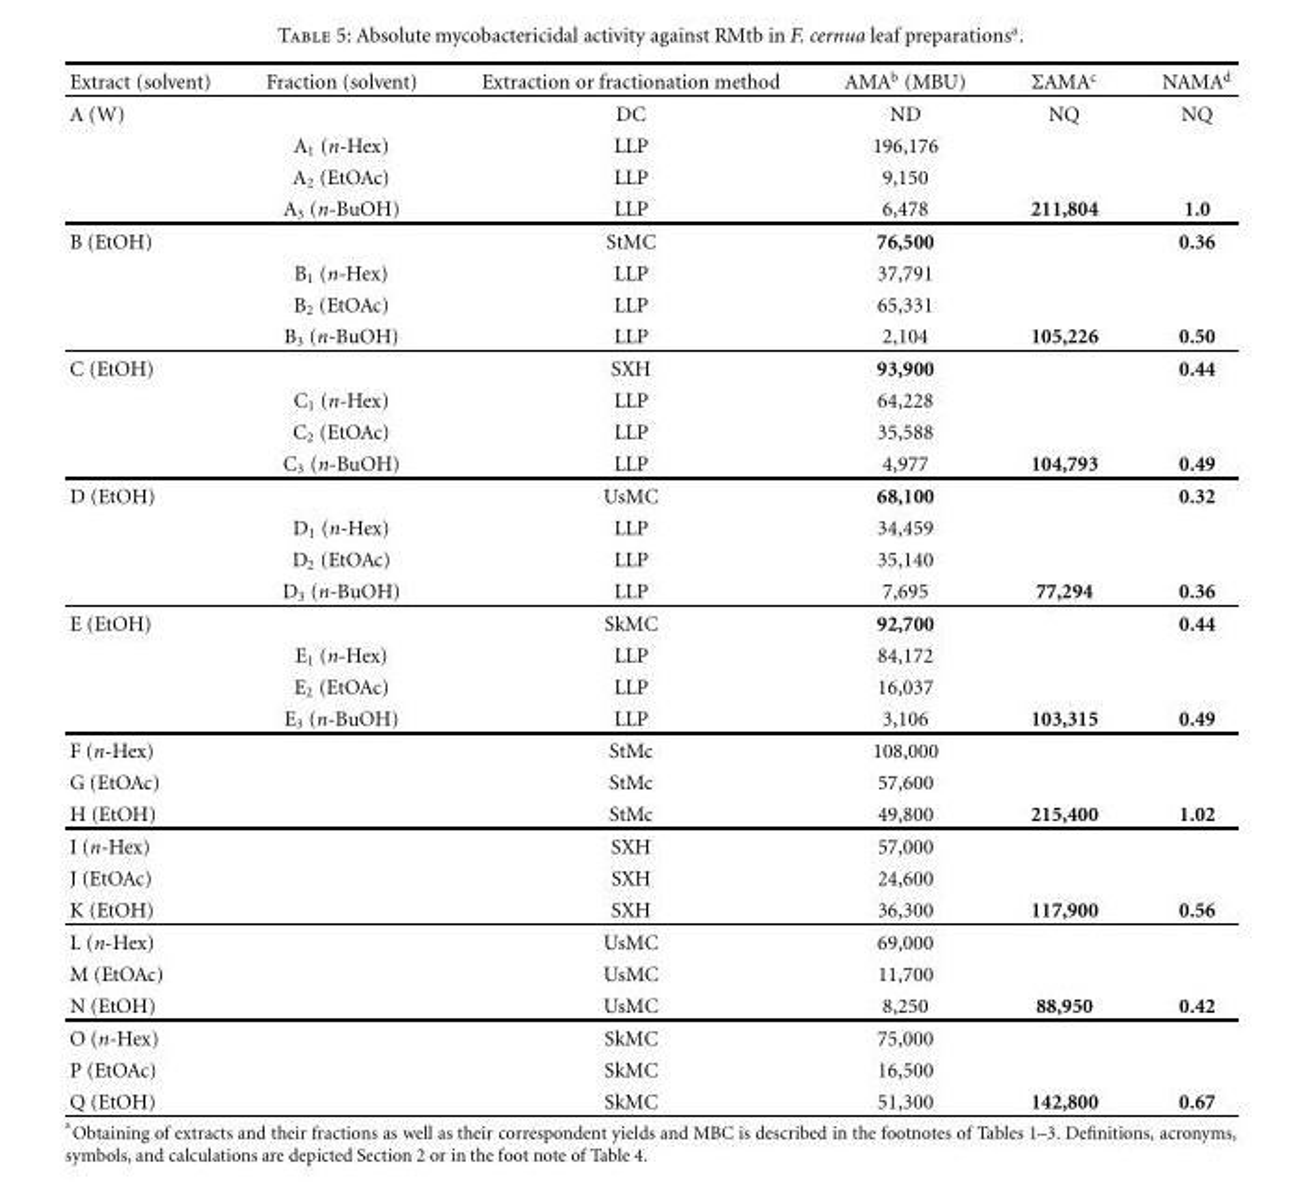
<table><thead><tr><td>Extract (solvent)</td><td>Fraction (solvent)</td><td>Extraction or fractionation method</td><td>AMA<sup>b</sup> (MBU)</td><td>ΣAMA<sup>c</sup></td><td>NAMA<sup>d</sup></td></tr></thead><tbody><tr><td rowspan="4">A (W)</td><td></td><td>DC</td><td>ND</td><td>NQ</td><td>NQ</td></tr><tr><td>A<sub>1</sub> (n-Hex)</td><td>LLP</td><td>196,176</td><td></td><td></td></tr><tr><td>A<sub>2</sub> (EtOAc)</td><td>LLP</td><td>9,150</td><td></td><td></td></tr><tr><td>A<sub>3</sub> (n-BuOH)</td><td>LLP</td><td>6,478</td><td>211,804</td><td>1.0</td></tr><tr><td rowspan="4">B (EtOH)</td><td></td><td>StMC</td><td>76,500</td><td></td><td>0.36</td></tr><tr><td>B<sub>1</sub> (n-Hex)</td><td>LLP</td><td>37,791</td><td></td><td></td></tr><tr><td>B<sub>2</sub> (EtOAc)</td><td>LLP</td><td>65,331</td><td></td><td></td></tr><tr><td>B<sub>3</sub> (n-BuOH)</td><td>LLP</td><td>2,104</td><td>105,226</td><td>0.50</td></tr><tr><td rowspan="4">C (EtOH)</td><td></td><td>SXH</td><td>93,900</td><td></td><td>0.44</td></tr><tr><td>C<sub>1</sub> (n-Hex)</td><td>LLP</td><td>64,228</td><td></td><td></td></tr><tr><td>C<sub>2</sub> (EtOAc)</td><td>LLP</td><td>35,588</td><td></td><td></td></tr><tr><td>C<sub>3</sub> (n-BuOH)</td><td>LLP</td><td>4,977</td><td>104,793</td><td>0.49</td></tr><tr><td rowspan="4">D (EtOH)</td><td></td><td>UsMC</td><td>68,100</td><td></td><td>0.32</td></tr><tr><td>D<sub>1</sub> (n-Hex)</td><td>LLP</td><td>34,459</td><td></td><td></td></tr><tr><td>D<sub>2</sub> (EtOAc)</td><td>LLP</td><td>35,140</td><td></td><td></td></tr><tr><td>D<sub>3</sub> (n-BuOH)</td><td>LLP</td><td>7,695</td><td>77,294</td><td>0.36</td></tr><tr><td rowspan="4">E (EtOH)</td><td></td><td>SkMC</td><td>92,700</td><td></td><td>0.44</td></tr><tr><td>E<sub>1</sub> (n-Hex)</td><td>LLP</td><td>84,172</td><td></td><td></td></tr><tr><td>E<sub>2</sub> (EtOAc)</td><td>LLP</td><td>16,037</td><td></td><td></td></tr><tr><td>E<sub>3</sub> (n-BuOH)</td><td>LLP</td><td>3,106</td><td>103,315</td><td>0.49</td></tr><tr><td>F (n-Hex)</td><td></td><td>StMc</td><td>108,000</td><td></td><td></td></tr><tr><td>G (EtOAc)</td><td></td><td>StMc</td><td>57,600</td><td></td><td></td></tr><tr><td>H (EtOH)</td><td></td><td>StMc</td><td>49,800</td><td>215,400</td><td>1.02</td></tr><tr><td>I (n-Hex)</td><td></td><td>SXH</td><td>57,000</td><td></td><td></td></tr><tr><td>J (EtOAc)</td><td></td><td>SXH</td><td>24,600</td><td></td><td></td></tr><tr><td>K (EtOH)</td><td></td><td>SXH</td><td>36,300</td><td>117,900</td><td>0.56</td></tr><tr><td>L (n-Hex)</td><td></td><td>UsMC</td><td>69,000</td><td></td><td></td></tr><tr><td>M (EtOAc)</td><td></td><td>UsMC</td><td>11,700</td><td></td><td></td></tr><tr><td>N (EtOH)</td><td></td><td>UsMC</td><td>8,250</td><td>88,950</td><td>0.42</td></tr><tr><td>O (n-Hex)</td><td></td><td>SkMC</td><td>75,000</td><td></td><td></td></tr><tr><td>P (EtOAc)</td><td></td><td>SkMC</td><td>16,500</td><td></td><td></td></tr><tr><td>Q (EtOH)</td><td></td><td>SkMC</td><td>51,300</td><td>142,800</td><td>0.67</td></tr></tbody></table>